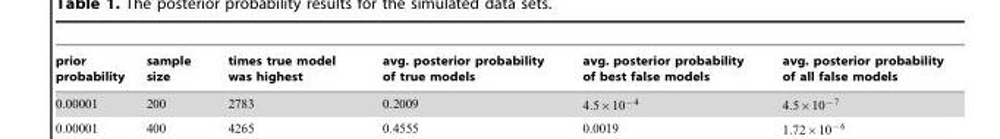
<table><thead><tr><td>prior probability</td><td>sample size</td><td>times true model was highest</td><td>avg. posterior probability of true models</td><td>avg. posterior probability of best false models</td><td>avg. posterior probability of all false models</td></tr></thead><tbody></tbody></table>